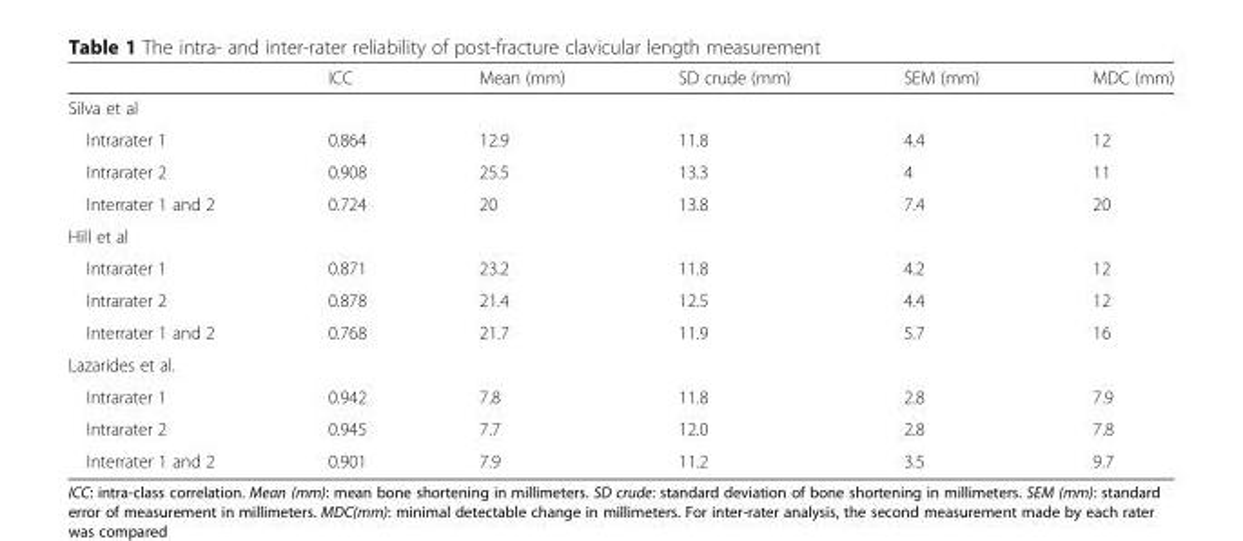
<table><thead><tr><td></td><td>ICC</td><td>Mean (mm)</td><td>SD crude (mm)</td><td>SEM (mm)</td><td>MDC (mm)</td></tr></thead><tbody><tr><td colspan="6">Silva et al</td></tr><tr><td>Intrarater 1</td><td>0.864</td><td>12.9</td><td>11.8</td><td>4.4</td><td>12</td></tr><tr><td>Intrarater 2</td><td>0.908</td><td>25.5</td><td>13.3</td><td>4</td><td>11</td></tr><tr><td>Interrater 1 and 2</td><td>0.724</td><td>20</td><td>13.8</td><td>7.4</td><td>20</td></tr><tr><td colspan="6">Hill et al</td></tr><tr><td>Intrarater 1</td><td>0.871</td><td>23.2</td><td>11.8</td><td>4.2</td><td>12</td></tr><tr><td>Intrarater 2</td><td>0.878</td><td>21.4</td><td>12.5</td><td>4.4</td><td>12</td></tr><tr><td>Interrater 1 and 2</td><td>0.768</td><td>21.7</td><td>11.9</td><td>5.7</td><td>16</td></tr><tr><td colspan="6">Lazarides et al.</td></tr><tr><td>Intrarater 1</td><td>0.942</td><td>7.8</td><td>11.8</td><td>2.8</td><td>7.9</td></tr><tr><td>Intrarater 2</td><td>0.945</td><td>7.7</td><td>12.0</td><td>2.8</td><td>7.8</td></tr><tr><td>Interrater 1 and 2</td><td>0.901</td><td>7.9</td><td>11.2</td><td>3.5</td><td>9.7</td></tr></tbody></table>